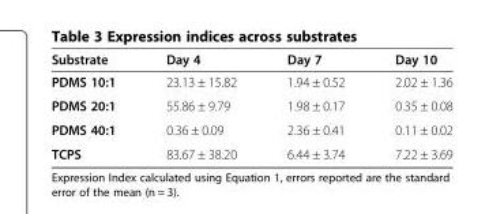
<table><thead><tr><td>Substrate</td><td>Day 4</td><td>Day 7</td><td>Day 10</td></tr></thead><tbody><tr><td>PDMS 10:1</td><td>23.13 ± 15.82</td><td>1.94 ± 0.52</td><td>2.02 ± 1.36</td></tr><tr><td>PDMS 20:1</td><td>55.86 ± 9.79</td><td>1.98 ± 0.17</td><td>0.35 ± 0.08</td></tr><tr><td>PDMS 40:1</td><td>0.36 ± 0.09</td><td>2.36 ± 0.41</td><td>0.11 ± 0.02</td></tr><tr><td>TCPS</td><td>83.67 ± 38.20</td><td>6.44 ± 3.74</td><td>7.22 ± 3.69</td></tr></tbody></table>